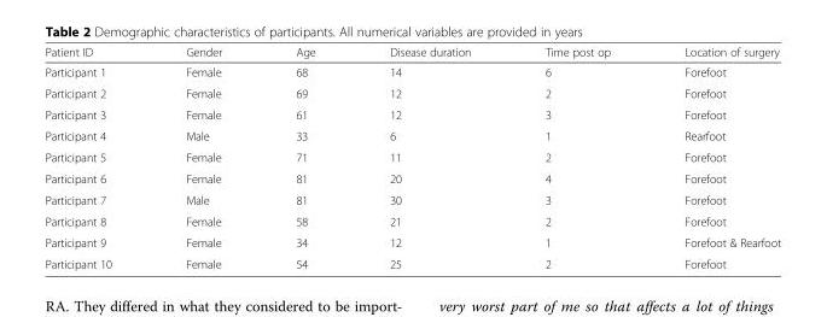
<table><thead><tr><td>Patient ID</td><td>Gender</td><td>Age</td><td>Disease duration</td><td>Time post op</td><td>Location of surgery</td></tr></thead><tbody><tr><td>Participant 1</td><td>Female</td><td>68</td><td>14</td><td>6</td><td>Forefoot</td></tr><tr><td>Participant 2</td><td>Female</td><td>69</td><td>12</td><td>2</td><td>Forefoot</td></tr><tr><td>Participant 3</td><td>Female</td><td>61</td><td>12</td><td>3</td><td>Forefoot</td></tr><tr><td>Participant 4</td><td>Male</td><td>33</td><td>6</td><td>1</td><td>Rearfoot</td></tr><tr><td>Participant 5</td><td>Female</td><td>71</td><td>11</td><td>2</td><td>Forefoot</td></tr><tr><td>Participant 6</td><td>Female</td><td>81</td><td>20</td><td>4</td><td>Forefoot</td></tr><tr><td>Participant 7</td><td>Male</td><td>81</td><td>30</td><td>3</td><td>Forefoot</td></tr><tr><td>Participant 8</td><td>Female</td><td>58</td><td>21</td><td>2</td><td>Forefoot</td></tr><tr><td>Participant 9</td><td>Female</td><td>34</td><td>12</td><td>1</td><td>Forefoot &amp; Rearfoot</td></tr><tr><td>Participant 10</td><td>Female</td><td>54</td><td>25</td><td>2</td><td>Forefoot</td></tr></tbody></table>